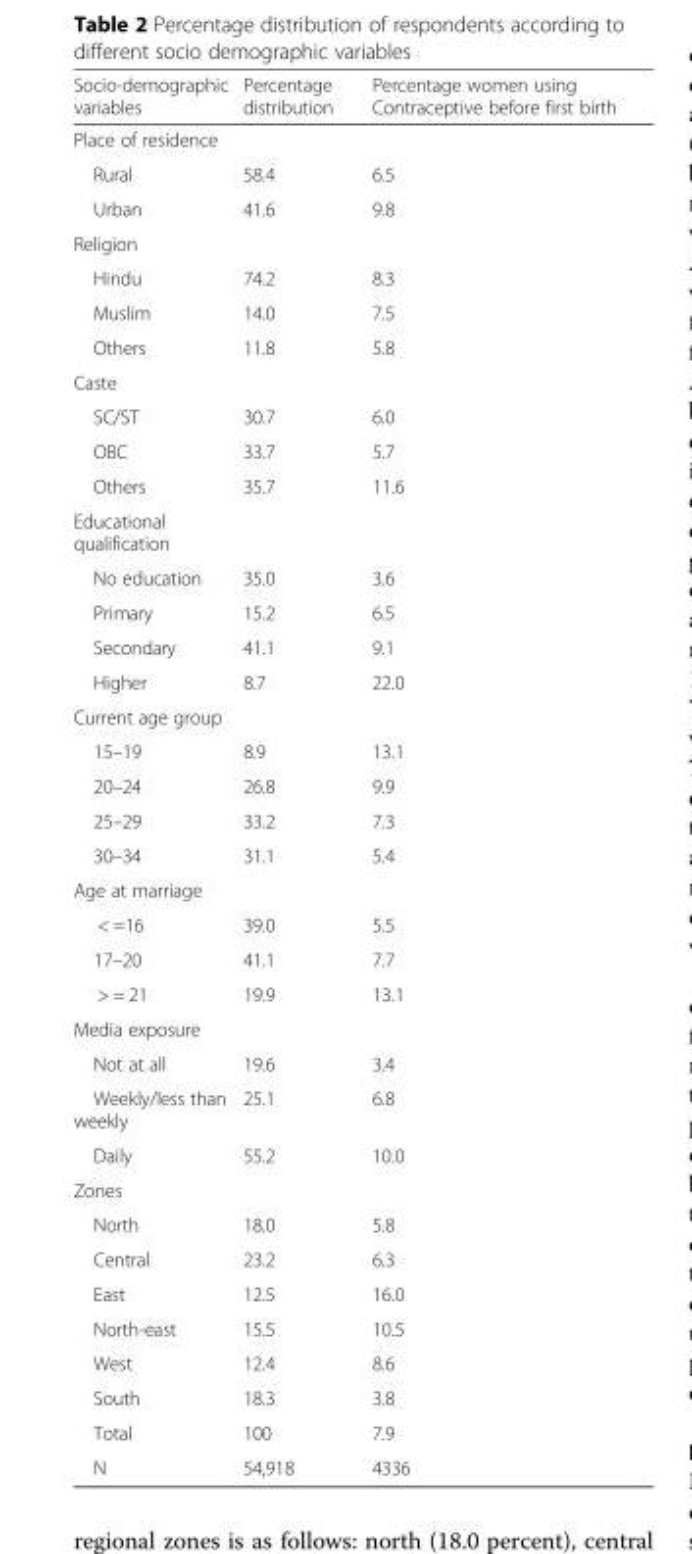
<table><thead><tr><td>Socio-demographic variables</td><td>Percentage distribution</td><td>Percentage women using Contraceptive before first birth</td></tr></thead><tbody><tr><td colspan="3">Place of residence</td></tr><tr><td>Rural</td><td>58.4</td><td>6.5</td></tr><tr><td>Urban</td><td>41.6</td><td>9.8</td></tr><tr><td colspan="3">Religion</td></tr><tr><td>Hindu</td><td>74.2</td><td>8.3</td></tr><tr><td>Muslim</td><td>14.0</td><td>7.5</td></tr><tr><td>Others</td><td>11.8</td><td>5.8</td></tr><tr><td colspan="3">Caste</td></tr><tr><td>SC/ST</td><td>30.7</td><td>6.0</td></tr><tr><td>OBC</td><td>33.7</td><td>5.7</td></tr><tr><td>Others</td><td>35.7</td><td>11.6</td></tr><tr><td colspan="3">Educational qualification</td></tr><tr><td>No education</td><td>35.0</td><td>3.6</td></tr><tr><td>Primary</td><td>15.2</td><td>6.5</td></tr><tr><td>Secondary</td><td>41.1</td><td>9.1</td></tr><tr><td>Higher</td><td>8.7</td><td>22.0</td></tr><tr><td colspan="3">Current age group</td></tr><tr><td>15–19</td><td>8.9</td><td>13.1</td></tr><tr><td>20–24</td><td>26.8</td><td>9.9</td></tr><tr><td>25–29</td><td>33.2</td><td>7.3</td></tr><tr><td>30–34</td><td>31.1</td><td>5.4</td></tr><tr><td colspan="3">Age at marriage</td></tr><tr><td>&lt; =16</td><td>39.0</td><td>5.5</td></tr><tr><td>17–20</td><td>41.1</td><td>7.7</td></tr><tr><td>&gt; = 21</td><td>19.9</td><td>13.1</td></tr><tr><td colspan="3">Media exposure</td></tr><tr><td>Not at all</td><td>19.6</td><td>3.4</td></tr><tr><td>Weekly/less than weekly</td><td>25.1</td><td>6.8</td></tr><tr><td>Daily</td><td>55.2</td><td>10.0</td></tr><tr><td colspan="3">Zones</td></tr><tr><td>North</td><td>18.0</td><td>5.8</td></tr><tr><td>Central</td><td>23.2</td><td>6.3</td></tr><tr><td>East</td><td>12.5</td><td>16.0</td></tr><tr><td>North-east</td><td>15.5</td><td>10.5</td></tr><tr><td>West</td><td>12.4</td><td>8.6</td></tr><tr><td>South</td><td>18.3</td><td>3.8</td></tr><tr><td>Total</td><td>100</td><td>7.9</td></tr><tr><td>N</td><td>54,918</td><td>4336</td></tr></tbody></table>